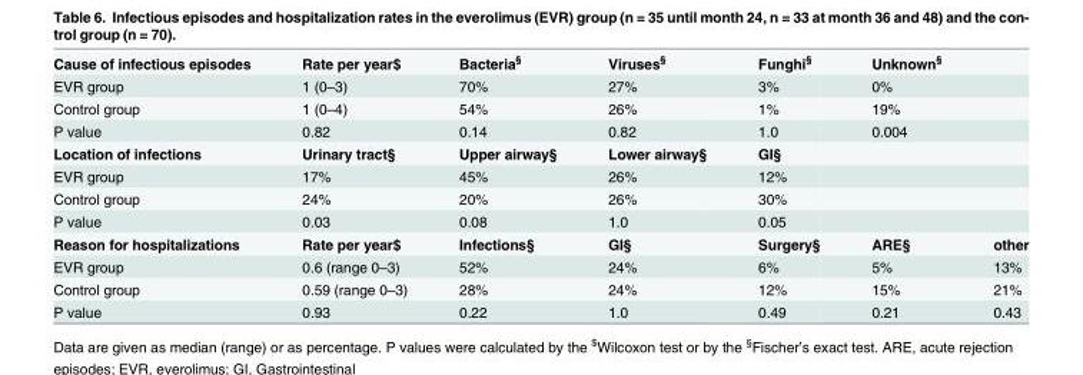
<table><tbody><tr><td>Cause of infectious episodes</td><td>Rate per year$</td><td>Bacteria<sup>§</sup></td><td>Viruses<sup>§</sup></td><td>Funghi<sup>§</sup></td><td>Unknown<sup>§</sup></td><td></td></tr><tr><td>EVR group</td><td>1 (0–3)</td><td>70%</td><td>27%</td><td>3%</td><td>0%</td><td></td></tr><tr><td>Control group</td><td>1 (0–4)</td><td>54%</td><td>26%</td><td>1%</td><td>19%</td><td></td></tr><tr><td>P value</td><td>0.82</td><td>0.14</td><td>0.82</td><td>1.0</td><td>0.004</td><td></td></tr><tr><td>Location of infections</td><td>Urinary tract§</td><td>Upper airway§</td><td>Lower airway§</td><td>GI§</td><td></td><td></td></tr><tr><td>EVR group</td><td>17%</td><td>45%</td><td>26%</td><td>12%</td><td></td><td></td></tr><tr><td>Control group</td><td>24%</td><td>20%</td><td>26%</td><td>30%</td><td></td><td></td></tr><tr><td>P value</td><td>0.03</td><td>0.08</td><td>1.0</td><td>0.05</td><td></td><td></td></tr><tr><td>Reason for hospitalizations</td><td>Rate per year$</td><td>Infections§</td><td>GI§</td><td>Surgery§</td><td>ARE§</td><td>other</td></tr><tr><td>EVR group</td><td>0.6 (range 0–3)</td><td>52%</td><td>24%</td><td>6%</td><td>5%</td><td>13%</td></tr><tr><td>Control group</td><td>0.59 (range 0–3)</td><td>28%</td><td>24%</td><td>12%</td><td>15%</td><td>21%</td></tr><tr><td>P value</td><td>0.93</td><td>0.22</td><td>1.0</td><td>0.49</td><td>0.21</td><td>0.43</td></tr></tbody></table>